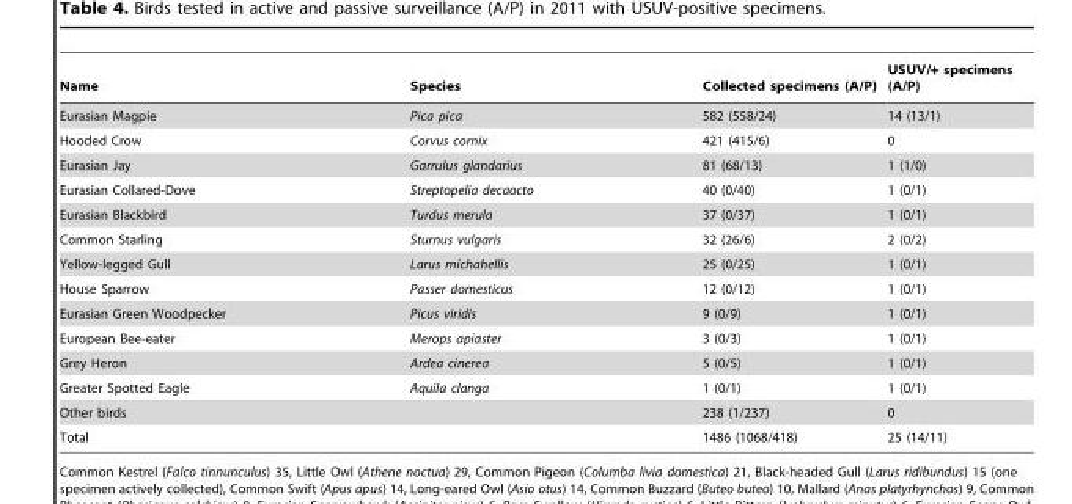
<table><thead><tr><td>Name</td><td>Species</td><td>Collected specimens (A/P)</td><td>USUV/+ specimens (A/P)</td></tr></thead><tbody><tr><td>Eurasian Magpie</td><td>Pica pica</td><td>582 (558/24)</td><td>14 (13/1)</td></tr><tr><td>Hooded Crow</td><td>Corvus cornix</td><td>421 (415/6)</td><td>0</td></tr><tr><td>Eurasian Jay</td><td>Garrulus glandarius</td><td>81 (68/13)</td><td>1 (1/0)</td></tr><tr><td>Eurasian Collared-Dove</td><td>Streptopelia decaocto</td><td>40 (0/40)</td><td>1 (0/1)</td></tr><tr><td>Eurasian Blackbird</td><td>Turdus merula</td><td>37 (0/37)</td><td>1 (0/1)</td></tr><tr><td>Common Starling</td><td>Sturnus vulgaris</td><td>32 (26/6)</td><td>2 (0/2)</td></tr><tr><td>Yellow-legged Gull</td><td>Larus michahellis</td><td>25 (0/25)</td><td>1 (0/1)</td></tr><tr><td>House Sparrow</td><td>Passer domesticus</td><td>12 (0/12)</td><td>1 (0/1)</td></tr><tr><td>Eurasian Green Woodpecker</td><td>Picus viridis</td><td>9 (0/9)</td><td>1 (0/1)</td></tr><tr><td>European Bee-eater</td><td>Merops apiaster</td><td>3 (0/3)</td><td>1 (0/1)</td></tr><tr><td>Grey Heron</td><td>Ardea cinerea</td><td>5 (0/5)</td><td>1 (0/1)</td></tr><tr><td>Greater Spotted Eagle</td><td>Aquila clanga</td><td>1 (0/1)</td><td>1 (0/1)</td></tr><tr><td>Other birds</td><td></td><td>238 (1/237)</td><td>0</td></tr><tr><td>Total</td><td></td><td>1486 (1068/418)</td><td>25 (14/11)</td></tr></tbody></table>